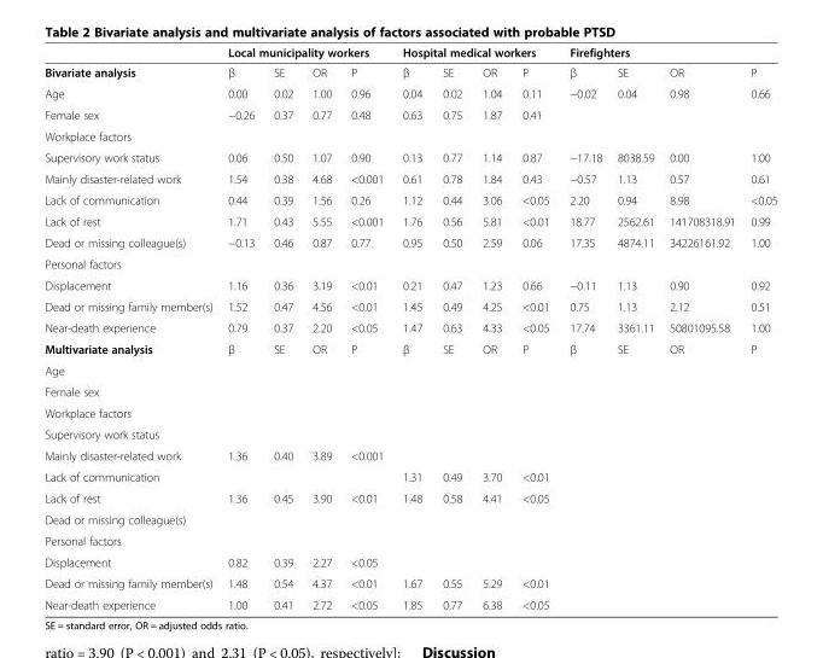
<table><thead><tr><td rowspan="2">Bivariate analysis</td><td colspan="4">Local municipality workers</td><td colspan="4">Hospital medical workers</td><td colspan="4">Firefighters</td></tr><tr><td>β</td><td>SE</td><td>OR</td><td>P</td><td>β</td><td>SE</td><td>OR</td><td>P</td><td>β</td><td>SE</td><td>OR</td><td>P</td></tr></thead><tbody><tr><td>Age</td><td>0.00</td><td>0.02</td><td>1.00</td><td>0.96</td><td>0.04</td><td>0.02</td><td>1.04</td><td>0.11</td><td>−0.02</td><td>0.04</td><td>0.98</td><td>0.66</td></tr><tr><td>Female sex</td><td>−0.26</td><td>0.37</td><td>0.77</td><td>0.48</td><td>0.63</td><td>0.75</td><td>1.87</td><td>0.41</td><td></td><td></td><td></td><td></td></tr><tr><td colspan="13">Workplace factors</td></tr><tr><td>Supervisory work status</td><td>0.06</td><td>0.50</td><td>1.07</td><td>0.90</td><td>0.13</td><td>0.77</td><td>1.14</td><td>0.87</td><td>−17.18</td><td>8038.59</td><td>0.00</td><td>1.00</td></tr><tr><td>Mainly disaster-related work</td><td>1.54</td><td>0.38</td><td>4.68</td><td>&lt;0.001</td><td>0.61</td><td>0.78</td><td>1.84</td><td>0.43</td><td>−0.57</td><td>1.13</td><td>0.57</td><td>0.61</td></tr><tr><td>Lack of communication</td><td>0.44</td><td>0.39</td><td>1.56</td><td>0.26</td><td>1.12</td><td>0.44</td><td>3.06</td><td>&lt;0.05</td><td>2.20</td><td>0.94</td><td>8.98</td><td>&lt;0.05</td></tr><tr><td>Lack of rest</td><td>1.71</td><td>0.43</td><td>5.55</td><td>&lt;0.001</td><td>1.76</td><td>0.56</td><td>5.81</td><td>&lt;0.01</td><td>18.77</td><td>2562.61</td><td>141708318.91</td><td>0.99</td></tr><tr><td>Dead or missing colleague(s)</td><td>−0.13</td><td>0.46</td><td>0.87</td><td>0.77</td><td>0.95</td><td>0.50</td><td>2.59</td><td>0.06</td><td>17.35</td><td>4874.11</td><td>34226161.92</td><td>1.00</td></tr><tr><td colspan="13">Personal factors</td></tr><tr><td>Displacement</td><td>1.16</td><td>0.36</td><td>3.19</td><td>&lt;0.01</td><td>0.21</td><td>0.47</td><td>1.23</td><td>0.66</td><td>−0.11</td><td>1.13</td><td>0.90</td><td>0.92</td></tr><tr><td>Dead or missing family member(s)</td><td>1.52</td><td>0.47</td><td>4.56</td><td>&lt;0.01</td><td>1.45</td><td>0.49</td><td>4.25</td><td>&lt;0.01</td><td>0.75</td><td>1.13</td><td>2.12</td><td>0.51</td></tr><tr><td>Near-death experience</td><td>0.79</td><td>0.37</td><td>2.20</td><td>&lt;0.05</td><td>1.47</td><td>0.63</td><td>4.33</td><td>&lt;0.05</td><td>17.74</td><td>3361.11</td><td>50801095.58</td><td>1.00</td></tr><tr><td>Multivariate analysis</td><td>β</td><td>SE</td><td>OR</td><td>P</td><td>β</td><td>SE</td><td>OR</td><td>P</td><td>β</td><td>SE</td><td>OR</td><td>P</td></tr><tr><td colspan="13">Age</td></tr><tr><td colspan="13">Female sex</td></tr><tr><td colspan="13">Workplace factors</td></tr><tr><td colspan="13">Supervisory work status</td></tr><tr><td>Mainly disaster-related work</td><td>1.36</td><td>0.40</td><td>3.89</td><td>&lt;0.001</td><td></td><td></td><td></td><td></td><td></td><td></td><td></td><td></td></tr><tr><td>Lack of communication</td><td></td><td></td><td></td><td></td><td>1.31</td><td>0.49</td><td>3.70</td><td>&lt;0.01</td><td></td><td></td><td></td><td></td></tr><tr><td>Lack of rest</td><td>1.36</td><td>0.45</td><td>3.90</td><td>&lt;0.01</td><td>1.48</td><td>0.58</td><td>4.41</td><td>&lt;0.05</td><td></td><td></td><td></td><td></td></tr><tr><td colspan="13">Dead or missing colleague(s)</td></tr><tr><td colspan="13">Personal factors</td></tr><tr><td>Displacement</td><td>0.82</td><td>0.39</td><td>2.27</td><td>&lt;0.05</td><td></td><td></td><td></td><td></td><td></td><td></td><td></td><td></td></tr><tr><td>Dead or missing family member(s)</td><td>1.48</td><td>0.54</td><td>4.37</td><td>&lt;0.01</td><td>1.67</td><td>0.55</td><td>5.29</td><td>&lt;0.01</td><td></td><td></td><td></td><td></td></tr><tr><td>Near-death experience</td><td>1.00</td><td>0.41</td><td>2.72</td><td>&lt;0.05</td><td>1.85</td><td>0.77</td><td>6.38</td><td>&lt;0.05</td><td></td><td></td><td></td><td></td></tr></tbody></table>